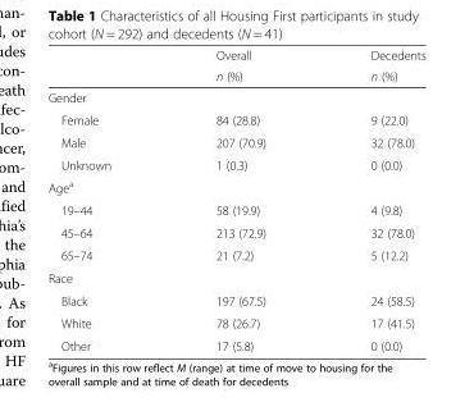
<table><thead><tr><td rowspan="2"></td><td rowspan="2">Overall n (%)</td><td rowspan="2">Decedents n (%)</td></tr><tr></tr></thead><tbody><tr><td colspan="3">Gender</td></tr><tr><td>Female</td><td>84 (28.8)</td><td>9 (22.0)</td></tr><tr><td>Male</td><td>207 (70.9)</td><td>32 (78.0)</td></tr><tr><td>Unknown</td><td>1 (0.3)</td><td>0 (0.0)</td></tr><tr><td colspan="3">Age<sup>a</sup></td></tr><tr><td>19–44</td><td>58 (19.9)</td><td>4 (9.8)</td></tr><tr><td>45–64</td><td>213 (72.9)</td><td>32 (78.0)</td></tr><tr><td>65–74</td><td>21 (7.2)</td><td>5 (12.2)</td></tr><tr><td colspan="3">Race</td></tr><tr><td>Black</td><td>197 (67.5)</td><td>24 (58.5)</td></tr><tr><td>White</td><td>78 (26.7)</td><td>17 (41.5)</td></tr><tr><td>Other</td><td>17 (5.8)</td><td>0 (0.0)</td></tr></tbody></table>